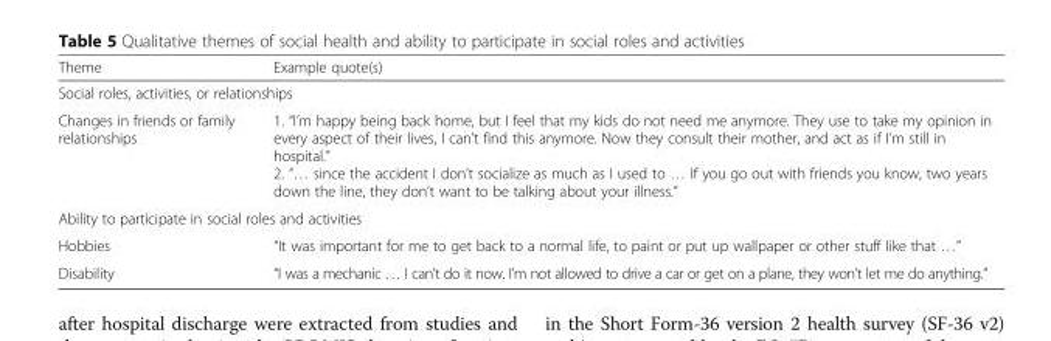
<table><thead><tr><td>Theme</td><td>Example quote(s)</td></tr></thead><tbody><tr><td colspan="2">Social roles, activities, or relationships</td></tr><tr><td>Changes in friends or family relationships</td><td>1. “I’m happy being back home, but I feel that my kids do not need me anymore. They use to take my opinion in every aspect of their lives, I can’t find this anymore. Now they consult their mother, and act as if I’m still in hospital.” 2. “… since the accident I don’t socialize as much as I used to … If you go out with friends you know, two years down the line, they don’t want to be talking about your illness.”</td></tr><tr><td colspan="2">Ability to participate in social roles and activities</td></tr><tr><td>Hobbies</td><td>“It was important for me to get back to a normal life, to paint or put up wallpaper or other stuff like that …”</td></tr><tr><td>Disability</td><td>“I was a mechanic … I can’t do it now. I’m not allowed to drive a car or get on a plane, they won’t let me do anything.”</td></tr></tbody></table>